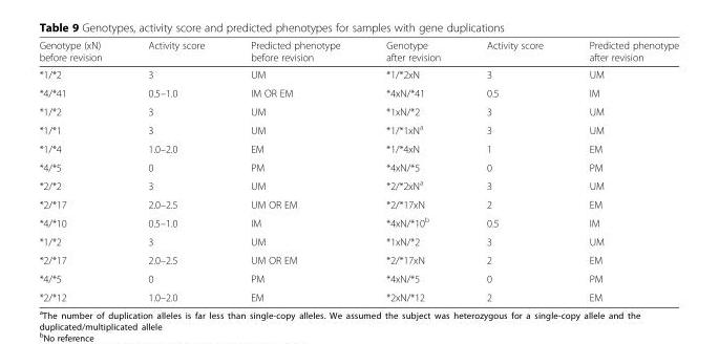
<table><thead><tr><td>Genotype (xN) before revision</td><td>Activity score</td><td>Predicted phenotype before revision</td><td>Genotype after revision</td><td>Activity score</td><td>Predicted phenotype after revision</td></tr></thead><tbody><tr><td>*1/*2</td><td>3</td><td>UM</td><td>*1/*2xN</td><td>3</td><td>UM</td></tr><tr><td>*4/*41</td><td>0.5–1.0</td><td>IM OR EM</td><td>*4xN/*41</td><td>0.5</td><td>IM</td></tr><tr><td>*1/*2</td><td>3</td><td>UM</td><td>*1xN/*2</td><td>3</td><td>UM</td></tr><tr><td>*1/*1</td><td>3</td><td>UM</td><td>*1/*1xN<sup>a</sup></td><td>3</td><td>UM</td></tr><tr><td>*1/*4</td><td>1.0–2.0</td><td>EM</td><td>*1/*4xN</td><td>1</td><td>EM</td></tr><tr><td>*4/*5</td><td>0</td><td>PM</td><td>*4xN/*5</td><td>0</td><td>PM</td></tr><tr><td>*2/*2</td><td>3</td><td>UM</td><td>*2/*2xN<sup>a</sup></td><td>3</td><td>UM</td></tr><tr><td>*2/*17</td><td>2.0–2.5</td><td>UM OR EM</td><td>*2/*17xN</td><td>2</td><td>EM</td></tr><tr><td>*4/*10</td><td>0.5–1.0</td><td>IM</td><td>*4xN/*10<sup>b</sup></td><td>0.5</td><td>IM</td></tr><tr><td>*1/*2</td><td>3</td><td>UM</td><td>*1xN/*2</td><td>3</td><td>UM</td></tr><tr><td>*2/*17</td><td>2.0–2.5</td><td>UM OR EM</td><td>*2/*17xN</td><td>2</td><td>EM</td></tr><tr><td>*4/*5</td><td>0</td><td>PM</td><td>*4xN/*5</td><td>0</td><td>PM</td></tr><tr><td>*2/*12</td><td>1.0–2.0</td><td>EM</td><td>*2xN/*12</td><td>2</td><td>EM</td></tr></tbody></table>